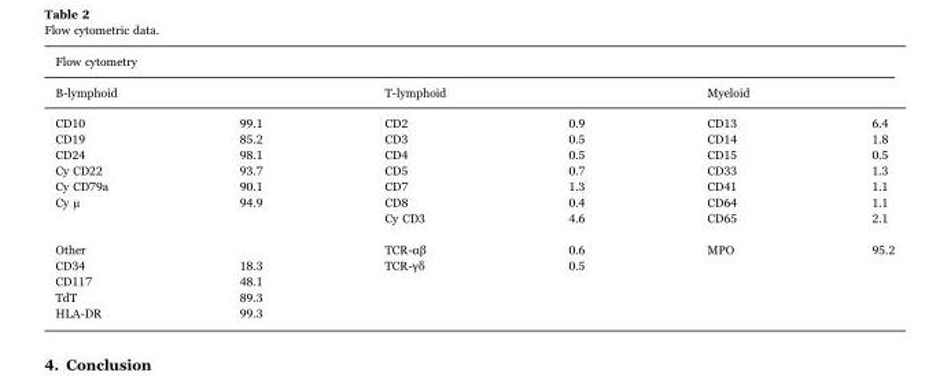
<table><thead><tr><td colspan="6">Flow cytometry</td></tr><tr><td>B-lymphoid</td><td></td><td>T-lymphoid</td><td></td><td>Myeloid</td><td></td></tr></thead><tbody><tr><td>CD10</td><td>99.1</td><td>CD2</td><td>0.9</td><td>CD13</td><td>6.4</td></tr><tr><td>CD19</td><td>85.2</td><td>CD3</td><td>0.5</td><td>CD14</td><td>1.8</td></tr><tr><td>CD24</td><td>98.1</td><td>CD4</td><td>0.5</td><td>CD15</td><td>0.5</td></tr><tr><td>Cy CD22</td><td>93.7</td><td>CD5</td><td>0.7</td><td>CD33</td><td>1.3</td></tr><tr><td>Cy CD79a</td><td>90.1</td><td>CD7</td><td>1.3</td><td>CD41</td><td>1.1</td></tr><tr><td rowspan="2">Cy μ</td><td>94.9</td><td>CD8</td><td>0.4</td><td>CD64</td><td>1.1</td></tr><tr><td></td><td>Cy CD3</td><td>4.6</td><td>CD65</td><td>2.1</td></tr><tr><td>Other</td><td></td><td>TCR-αβ</td><td>0.6</td><td>MPO</td><td>95.2</td></tr><tr><td>CD34</td><td>18.3</td><td>TCR-γδ</td><td>0.5</td><td></td><td></td></tr><tr><td>CD117</td><td>48.1</td><td></td><td></td><td></td><td></td></tr><tr><td>TdT</td><td>89.3</td><td></td><td></td><td></td><td></td></tr><tr><td>HLA-DR</td><td>99.3</td><td></td><td></td><td></td><td></td></tr></tbody></table>